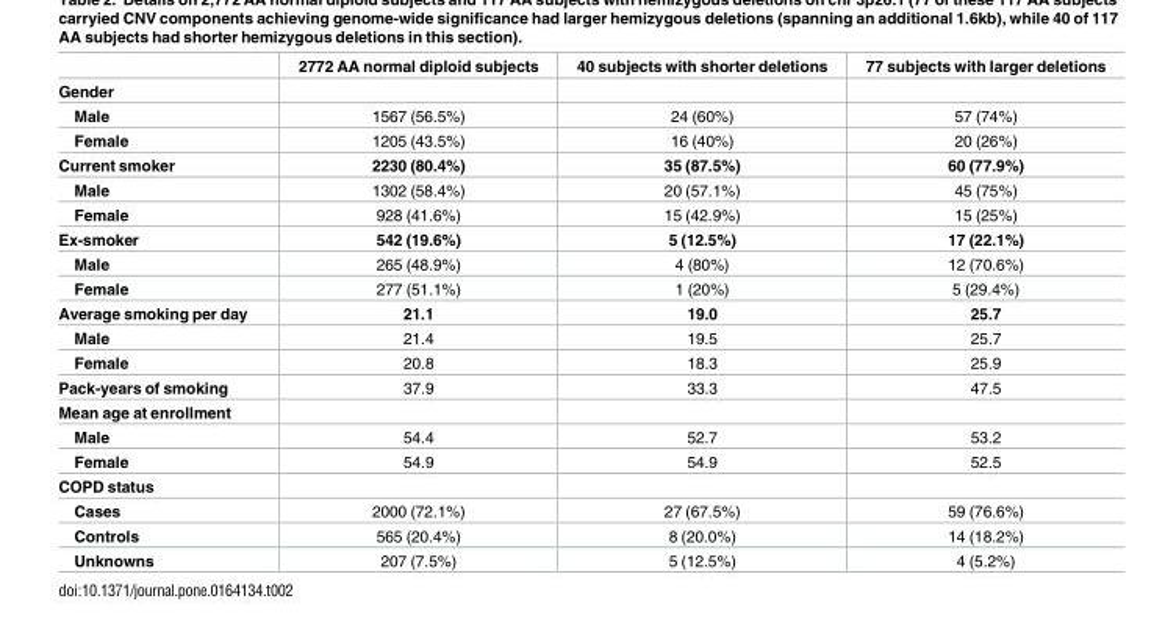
<table><thead><tr><td></td><td>2772 AA normal diploid subjects</td><td>40 subjects with shorter deletions</td><td>77 subjects with larger deletions</td></tr></thead><tbody><tr><td colspan="4">Gender</td></tr><tr><td>Male</td><td>1567 (56.5%)</td><td>24 (60%)</td><td>57 (74%)</td></tr><tr><td>Female</td><td>1205 (43.5%)</td><td>16 (40%)</td><td>20 (26%)</td></tr><tr><td>Current smoker</td><td>2230 (80.4%)</td><td>35 (87.5%)</td><td>60 (77.9%)</td></tr><tr><td>Male</td><td>1302 (58.4%)</td><td>20 (57.1%)</td><td>45 (75%)</td></tr><tr><td>Female</td><td>928 (41.6%)</td><td>15 (42.9%)</td><td>15 (25%)</td></tr><tr><td>Ex-smoker</td><td>542 (19.6%)</td><td>5 (12.5%)</td><td>17 (22.1%)</td></tr><tr><td>Male</td><td>265 (48.9%)</td><td>4 (80%)</td><td>12 (70.6%)</td></tr><tr><td>Female</td><td>277 (51.1%)</td><td>1 (20%)</td><td>5 (29.4%)</td></tr><tr><td>Average smoking per day</td><td>21.1</td><td>19.0</td><td>25.7</td></tr><tr><td>Male</td><td>21.4</td><td>19.5</td><td>25.7</td></tr><tr><td>Female</td><td>20.8</td><td>18.3</td><td>25.9</td></tr><tr><td>Pack-years of smoking</td><td>37.9</td><td>33.3</td><td>47.5</td></tr><tr><td colspan="4">Mean age at enrollment</td></tr><tr><td>Male</td><td>54.4</td><td>52.7</td><td>53.2</td></tr><tr><td>Female</td><td>54.9</td><td>54.9</td><td>52.5</td></tr><tr><td colspan="4">COPD status</td></tr><tr><td>Cases</td><td>2000 (72.1%)</td><td>27 (67.5%)</td><td>59 (76.6%)</td></tr><tr><td>Controls</td><td>565 (20.4%)</td><td>8 (20.0%)</td><td>14 (18.2%)</td></tr><tr><td>Unknowns</td><td>207 (7.5%)</td><td>5 (12.5%)</td><td>4 (5.2%)</td></tr></tbody></table>